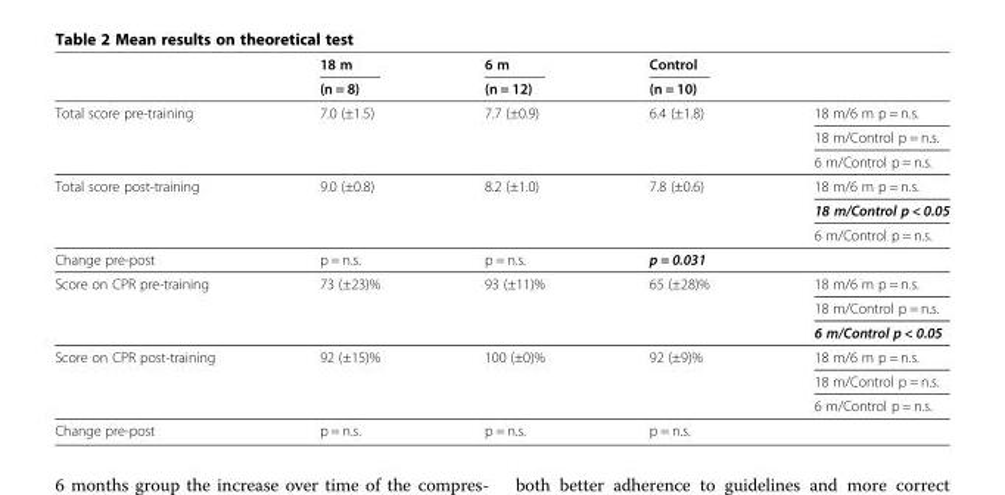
<table><thead><tr><td rowspan="2"></td><td rowspan="2">18 m (n = 8)</td><td rowspan="2">6 m (n = 12)</td><td rowspan="2">Control (n = 10)</td><td rowspan="2"></td></tr><tr></tr></thead><tbody><tr><td rowspan="3">Total score pre-training</td><td rowspan="3">7.0 (±1.5)</td><td rowspan="3">7.7 (±0.9)</td><td rowspan="3">6.4 (±1.8)</td><td>18 m/6 m p = n.s.</td></tr><tr><td>18 m/Control p = n.s.</td></tr><tr><td>6 m/Control p = n.s.</td></tr><tr><td rowspan="3">Total score post-training</td><td rowspan="3">9.0 (±0.8)</td><td rowspan="3">8.2 (±1.0)</td><td rowspan="3">7.8 (±0.6)</td><td>18 m/6 m p = n.s.</td></tr><tr><td>18 m/Control p &lt; 0.05</td></tr><tr><td>6 m/Control p = n.s.</td></tr><tr><td>Change pre-post</td><td>p = n.s.</td><td>p = n.s.</td><td>p = 0.031</td><td></td></tr><tr><td rowspan="3">Score on CPR pre-training</td><td rowspan="3">73 (±23)%</td><td rowspan="3">93 (±11)%</td><td rowspan="3">65 (±28)%</td><td>18 m/6 m p = n.s.</td></tr><tr><td>18 m/Control p = n.s.</td></tr><tr><td>6 m/Control p &lt; 0.05</td></tr><tr><td rowspan="3">Score on CPR post-training</td><td rowspan="3">92 (±15)%</td><td rowspan="3">100 (±0)%</td><td rowspan="3">92 (±9)%</td><td>18 m/6 m p = n.s.</td></tr><tr><td>18 m/Control p = n.s.</td></tr><tr><td>6 m/Control p = n.s.</td></tr><tr><td>Change pre-post</td><td>p = n.s.</td><td>p = n.s.</td><td>p = n.s.</td><td></td></tr></tbody></table>